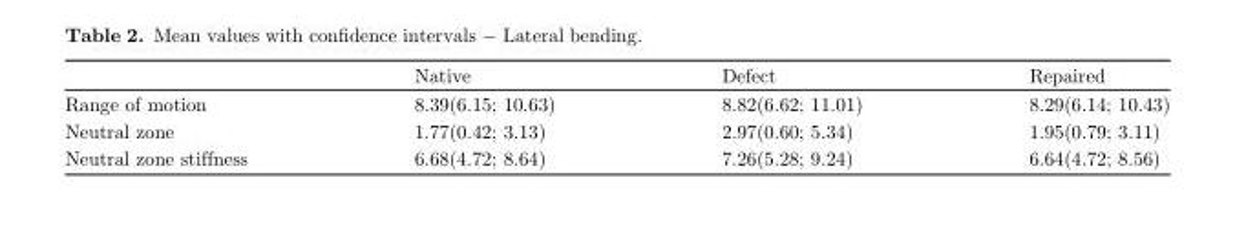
<table><thead><tr><td></td><td>Native</td><td>Defect</td><td>Repaired</td></tr></thead><tbody><tr><td>Range of motion</td><td>8.39(6.15; 10.63)</td><td>8.82(6.62; 11.01)</td><td>8.29(6.14; 10.43)</td></tr><tr><td>Neutral zone</td><td>1.77(0.42; 3.13)</td><td>2.97(0.60; 5.34)</td><td>1.95(0.79; 3.11)</td></tr><tr><td>Neutral zone stiffness</td><td>6.68(4.72; 8.64)</td><td>7.26(5.28; 9.24)</td><td>6.64(4.72; 8.56)</td></tr></tbody></table>